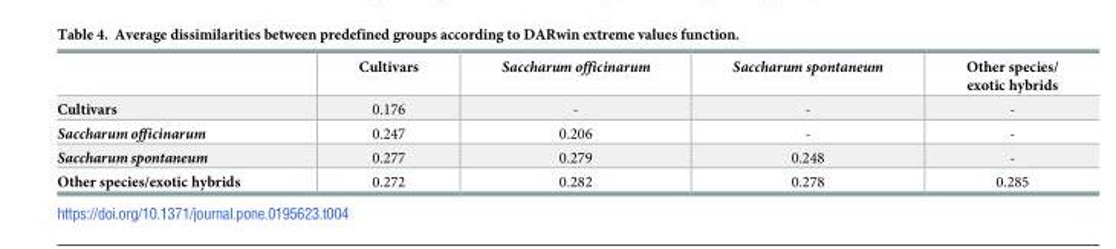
<table><thead><tr><td></td><td>Cultivars</td><td>Saccharum officinarum</td><td>Saccharum spontaneum</td><td>Other species/ exotic hybrids</td></tr></thead><tbody><tr><td>Cultivars</td><td>0.176</td><td>-</td><td>-</td><td>-</td></tr><tr><td>Saccharum officinarum</td><td>0.247</td><td>0.206</td><td>-</td><td>-</td></tr><tr><td>Saccharum spontaneum</td><td>0.277</td><td>0.279</td><td>0.248</td><td>-</td></tr><tr><td>Other species/exotic hybrids</td><td>0.272</td><td>0.282</td><td>0.278</td><td>0.285</td></tr></tbody></table>